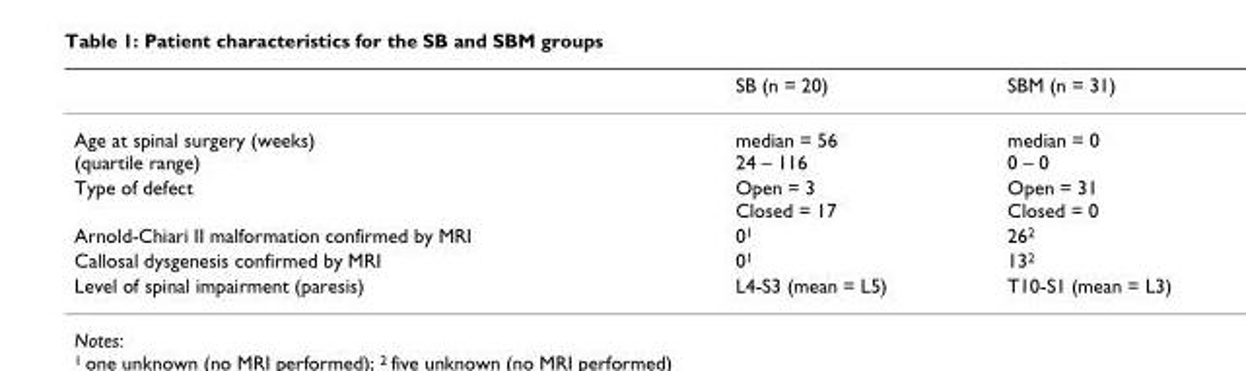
<table><thead><tr><td></td><td>SB (n = 20)</td><td>SBM (n = 31)</td></tr></thead><tbody><tr><td>Age at spinal surgery (weeks) (quartile range)</td><td>median = 56 24 – 116</td><td>median = 0 0 – 0</td></tr><tr><td>Type of defect</td><td>Open = 3 Closed = 17</td><td>Open = 31 Closed = 0</td></tr><tr><td>Arnold-Chiari II malformation confirmed by MRI</td><td>0<sup>1</sup></td><td>26<sup>2</sup></td></tr><tr><td>Callosal dysgenesis confirmed by MRI</td><td>0<sup>1</sup></td><td>13<sup>2</sup></td></tr><tr><td>Level of spinal impairment (paresis)</td><td>L4-S3 (mean = L5)</td><td>T10-S1 (mean = L3)</td></tr></tbody></table>